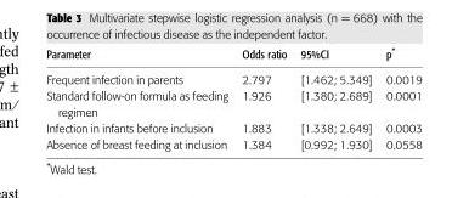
<table><thead><tr><td>Parameter</td><td>Odds ratio</td><td>95%CI</td><td>p*</td></tr></thead><tbody><tr><td>Frequent infection in parents</td><td>2.797</td><td>[1.462; 5.349]</td><td>0.0019</td></tr><tr><td>Standard follow-on formula as feeding regimen</td><td>1.926</td><td>[1.380; 2.689]</td><td>0.0001</td></tr><tr><td>Infection in infants before inclusion</td><td>1.883</td><td>[1.338; 2.649]</td><td>0.0003</td></tr><tr><td>Absence of breast feeding at inclusion</td><td>1.384</td><td>[0.992; 1.930]</td><td>0.0558</td></tr></tbody></table>